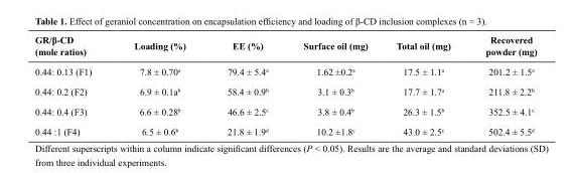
<table><thead><tr><td>GR/β-CD (mole ratios)</td><td>Loading (%)</td><td>EE (%)</td><td>Surface oil (mg)</td><td>Total oil (mg)</td><td>Recovered powder (mg)</td></tr></thead><tbody><tr><td>0.44: 0.13 (F1)</td><td>7.8 ± 0.70<sup>a</sup></td><td>79.4 ± 5.4<sup>a</sup></td><td>1.62 ±0.2<sup>a</sup></td><td>17.5 ± 1.1<sup>a</sup></td><td>201.2 ± 1.5<sup>a</sup></td></tr><tr><td>0.44: 0.2 (F2)</td><td>6.9 ± 0.1<sup>ab</sup></td><td>58.4 ± 0.9<sup>b</sup></td><td>3.1 ± 0.3<sup>b</sup></td><td>17.7 ± 1.7<sup>a</sup></td><td>211.8 ± 2.2<sup>b</sup></td></tr><tr><td>0.44: 0.4 (F3)</td><td>6.6 ± 0.28<sup>b</sup></td><td>46.6 ± 2.5<sup>c</sup></td><td>3.8 ± 0.4<sup>b</sup></td><td>26.3 ± 1.5<sup>b</sup></td><td>352.5 ± 4.1<sup>c</sup></td></tr><tr><td>0.44 :1 (F4)</td><td>6.5 ± 0.6<sup>b</sup></td><td>21.8 ± 1.9<sup>d</sup></td><td>10.2 ±1.8<sup>c</sup></td><td>43.0 ± 2.5<sup>c</sup></td><td>502.4 ± 5.5<sup>d</sup></td></tr></tbody></table>